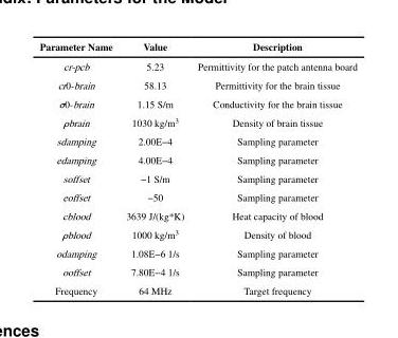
<table><thead><tr><td>Parameter Name</td><td>Value</td><td>Description</td></tr></thead><tbody><tr><td>cr-pcb</td><td>5.23</td><td>Permittivity for the patch antenna board</td></tr><tr><td>cr0-brain</td><td>58.13</td><td>Permittivity for the brain tissue</td></tr><tr><td>σ0-brain</td><td>1.15 S/m</td><td>Conductivity for the brain tissue</td></tr><tr><td>ρbrain</td><td>1030 kg/m<sup>3</sup></td><td>Density of brain tissue</td></tr><tr><td>sdamping</td><td>2.00E−4</td><td>Sampling parameter</td></tr><tr><td>edamping</td><td>4.00E−4</td><td>Sampling parameter</td></tr><tr><td>soffset</td><td>−1 S/m</td><td>Sampling parameter</td></tr><tr><td>eoffset</td><td>−50</td><td>Sampling parameter</td></tr><tr><td>cblood</td><td>3639 J/(kg*K)</td><td>Heat capacity of blood</td></tr><tr><td>ρblood</td><td>1000 kg/m<sup>3</sup></td><td>Density of blood</td></tr><tr><td>odamping</td><td>1.08E−6 1/s</td><td>Sampling parameter</td></tr><tr><td>ooffset</td><td>7.80E−4 1/s</td><td>Sampling parameter</td></tr><tr><td>Frequency</td><td>64 MHz</td><td>Target frequency</td></tr></tbody></table>